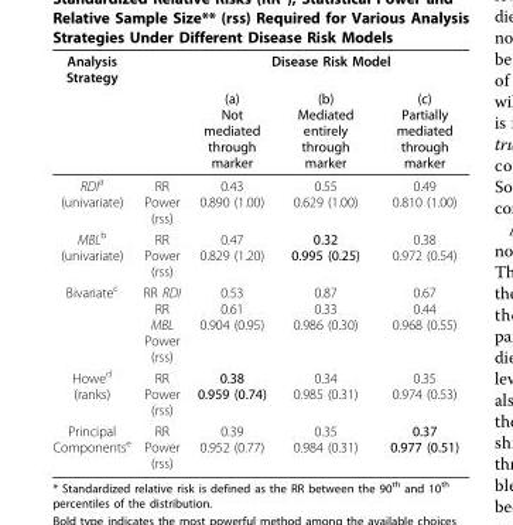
<table><thead><tr><td rowspan="2">Analysis Strategy</td><td rowspan="2"></td><td colspan="3">Disease Risk Model</td></tr><tr><td>(a) Not mediated through marker</td><td>(b) Mediated entirely through marker</td><td>(c) Partially mediated through marker</td></tr></thead><tbody><tr><td>RDI<sup>a</sup> (univariate)</td><td>RR Power (rss)</td><td>0.43 0.890 (1.00)</td><td>0.55 0.629 (1.00)</td><td>0.49 0.810 (1.00)</td></tr><tr><td>MBL<sup>b</sup> (univariate)</td><td>RR Power (rss)</td><td>0.47 0.829 (1.20)</td><td>0.32 0.995 (0.25)</td><td>0.38 0.972 (0.54)</td></tr><tr><td>Bivariate<sup>c</sup></td><td>RR RDI RR MBL Power (rss)</td><td>0.53 0.61 0.904 (0.95)</td><td>0.87 0.33 0.986 (0.30)</td><td>0.67 0.44 0.968 (0.55)</td></tr><tr><td>Howe<sup>d</sup> (ranks)</td><td>RR Power (rss)</td><td>0.38 0.959 (0.74)</td><td>0.34 0.985 (0.31)</td><td>0.35 0.974 (0.53)</td></tr><tr><td>Principal Components<sup>e</sup></td><td>RR Power (rss)</td><td>0.39 0.952 (0.77)</td><td>0.35 0.984 (0.31)</td><td>0.37 0.977 (0.51)</td></tr></tbody></table>